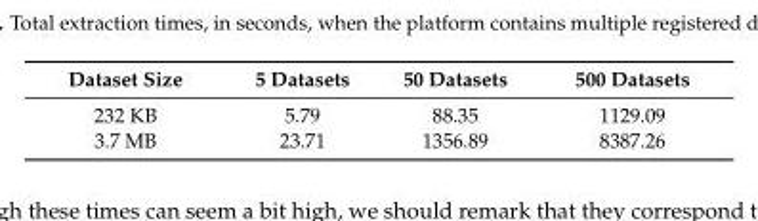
<table><thead><tr><td>Dataset Size</td><td>5 Datasets</td><td>50 Datasets</td><td>500 Datasets</td></tr></thead><tbody><tr><td>232 KB</td><td>5.79</td><td>88.35</td><td>1129.09</td></tr><tr><td>3.7 MB</td><td>23.71</td><td>1356.89</td><td>8387.26</td></tr></tbody></table>